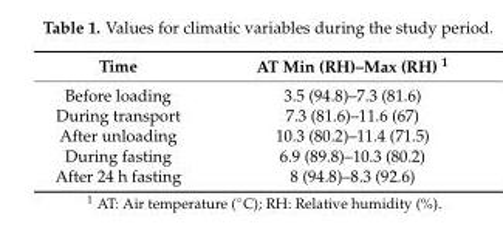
<table><thead><tr><td>Time</td><td>AT Min (RH)–Max (RH) <sup>1</sup></td></tr></thead><tbody><tr><td>Before loading</td><td>3.5 (94.8)–7.3 (81.6)</td></tr><tr><td>During transport</td><td>7.3 (81.6)–11.6 (67)</td></tr><tr><td>After unloading</td><td>10.3 (80.2)–11.4 (71.5)</td></tr><tr><td>During fasting</td><td>6.9 (89.8)–10.3 (80.2)</td></tr><tr><td>After 24 h fasting</td><td>8 (94.8)–8.3 (92.6)</td></tr></tbody></table>